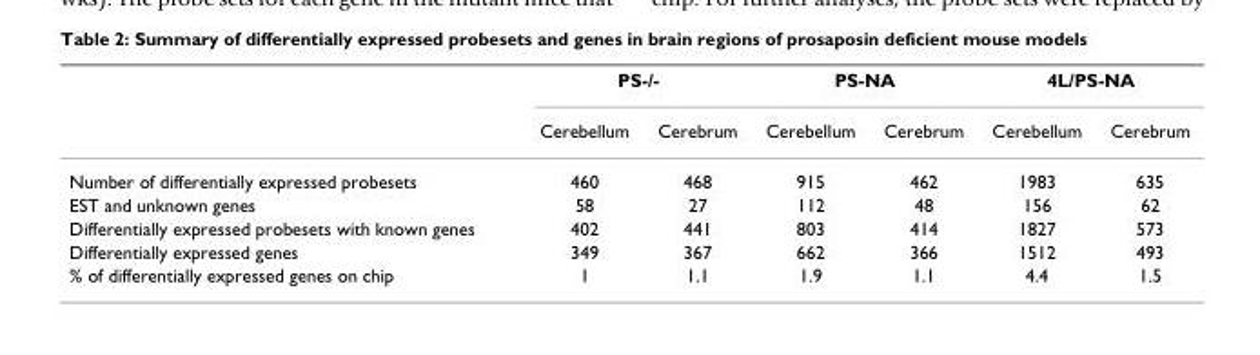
<table><thead><tr><td rowspan="2"></td><td colspan="2">PS-/-</td><td colspan="2">PS-NA</td><td colspan="2">4L/PS-NA</td></tr><tr><td>Cerebellum</td><td>Cerebrum</td><td>Cerebellum</td><td>Cerebrum</td><td>Cerebellum</td><td>Cerebrum</td></tr></thead><tbody><tr><td>Number of differentially expressed probesets</td><td>460</td><td>468</td><td>915</td><td>462</td><td>1983</td><td>635</td></tr><tr><td>EST and unknown genes</td><td>58</td><td>27</td><td>112</td><td>48</td><td>156</td><td>62</td></tr><tr><td>Differentially expressed probesets with known genes</td><td>402</td><td>441</td><td>803</td><td>414</td><td>1827</td><td>573</td></tr><tr><td>Differentially expressed genes</td><td>349</td><td>367</td><td>662</td><td>366</td><td>1512</td><td>493</td></tr><tr><td>% of differentially expressed genes on chip</td><td>1</td><td>1.1</td><td>1.9</td><td>1.1</td><td>4.4</td><td>1.5</td></tr></tbody></table>